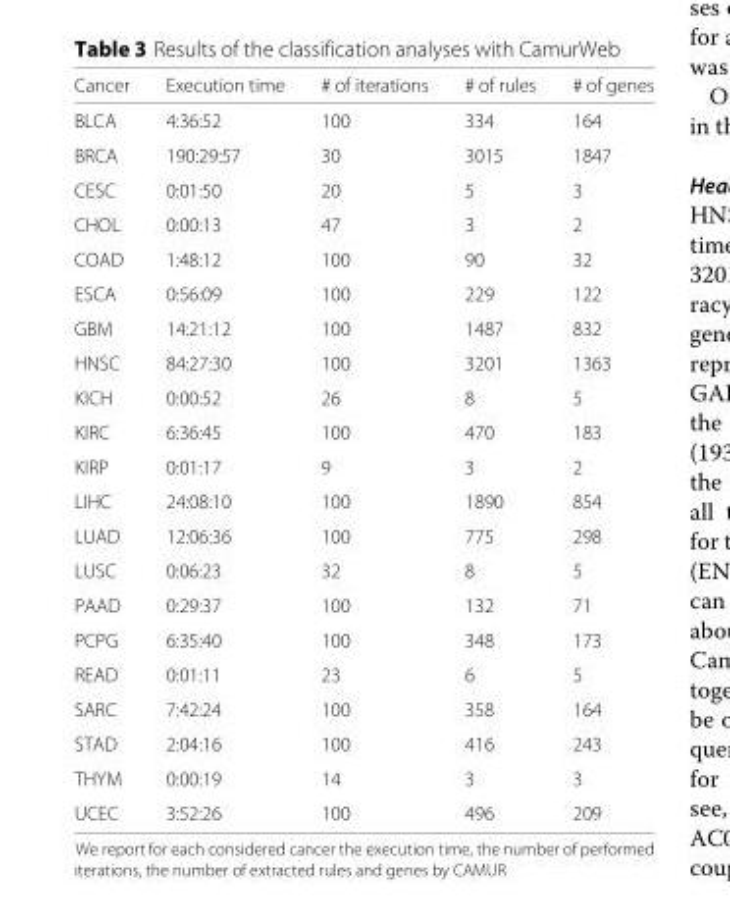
<table><thead><tr><td>Cancer</td><td>Execution time</td><td># of iterations</td><td># of rules</td><td># of genes</td></tr></thead><tbody><tr><td>BLCA</td><td>4:36:52</td><td>100</td><td>334</td><td>164</td></tr><tr><td>BRCA</td><td>190:29:57</td><td>30</td><td>3015</td><td>1847</td></tr><tr><td>CESC</td><td>0:01:50</td><td>20</td><td>5</td><td>3</td></tr><tr><td>CHOL</td><td>0:00:13</td><td>47</td><td>3</td><td>2</td></tr><tr><td>COAD</td><td>1:48:12</td><td>100</td><td>90</td><td>32</td></tr><tr><td>ESCA</td><td>0:56:09</td><td>100</td><td>229</td><td>122</td></tr><tr><td>GBM</td><td>14:21:12</td><td>100</td><td>1487</td><td>832</td></tr><tr><td>HNSC</td><td>84:27:30</td><td>100</td><td>3201</td><td>1363</td></tr><tr><td>KICH</td><td>0:00:52</td><td>26</td><td>8</td><td>5</td></tr><tr><td>KIRC</td><td>6:36:45</td><td>100</td><td>470</td><td>183</td></tr><tr><td>KIRP</td><td>0:01:17</td><td>9</td><td>3</td><td>2</td></tr><tr><td>LIHC</td><td>24:08:10</td><td>100</td><td>1890</td><td>854</td></tr><tr><td>LUAD</td><td>12:06:36</td><td>100</td><td>775</td><td>298</td></tr><tr><td>LUSC</td><td>0:06:23</td><td>32</td><td>8</td><td>5</td></tr><tr><td>PAAD</td><td>0:29:37</td><td>100</td><td>132</td><td>71</td></tr><tr><td>PCPG</td><td>6:35:40</td><td>100</td><td>348</td><td>173</td></tr><tr><td>READ</td><td>0:01:11</td><td>23</td><td>6</td><td>5</td></tr><tr><td>SARC</td><td>7:42:24</td><td>100</td><td>358</td><td>164</td></tr><tr><td>STAD</td><td>2:04:16</td><td>100</td><td>416</td><td>243</td></tr><tr><td>THYM</td><td>0:00:19</td><td>14</td><td>3</td><td>3</td></tr><tr><td>UCEC</td><td>3:52:26</td><td>100</td><td>496</td><td>209</td></tr></tbody></table>